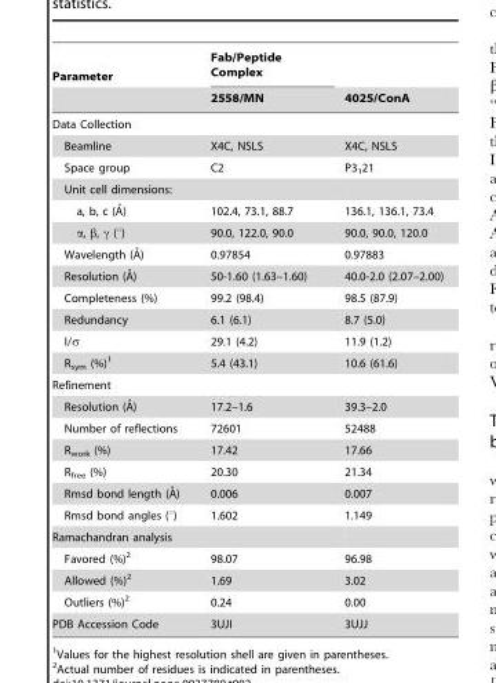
<table><thead><tr><td rowspan="2">Parameter</td><td rowspan="2">Fab/Peptide Complex 2558/MN</td><td rowspan="2">4025/ConA</td></tr><tr></tr></thead><tbody><tr><td colspan="3">Data Collection</td></tr><tr><td>Beamline</td><td>X4C, NSLS</td><td>X4C, NSLS</td></tr><tr><td>Space group</td><td>C2</td><td>P3<sub>1</sub>21</td></tr><tr><td colspan="3">Unit cell dimensions:</td></tr><tr><td>a, b, c (A˚)</td><td>102.4, 73.1, 88.7</td><td>136.1, 136.1, 73.4</td></tr><tr><td>α, β, γ (°)</td><td>90.0, 122.0, 90.0</td><td>90.0, 90.0, 120.0</td></tr><tr><td>Wavelength (A˚)</td><td>0.97854</td><td>0.97883</td></tr><tr><td>Resolution (A˚)</td><td>50-1.60 (1.63–1.60)</td><td>40.0-2.0 (2.07–2.00)</td></tr><tr><td>Completeness (%)</td><td>99.2 (98.4)</td><td>98.5 (87.9)</td></tr><tr><td>Redundancy</td><td>6.1 (6.1)</td><td>8.7 (5.0)</td></tr><tr><td>I/σ</td><td>29.1 (4.2)</td><td>11.9 (1.2)</td></tr><tr><td>R<sub>sym</sub> (%)<sup>1</sup></td><td>5.4 (43.1)</td><td>10.6 (61.6)</td></tr><tr><td colspan="3">Refinement</td></tr><tr><td>Resolution (A˚)</td><td>17.2–1.6</td><td>39.3–2.0</td></tr><tr><td>Number of reflections</td><td>72601</td><td>52488</td></tr><tr><td>R<sub>work</sub> (%)</td><td>17.42</td><td>17.66</td></tr><tr><td>R<sub>free</sub> (%)</td><td>20.30</td><td>21.34</td></tr><tr><td>Rmsd bond length (A˚)</td><td>0.006</td><td>0.007</td></tr><tr><td>Rmsd bond angles (°)</td><td>1.602</td><td>1.149</td></tr><tr><td colspan="3">Ramachandran analysis</td></tr><tr><td>Favored (%)<sup>2</sup></td><td>98.07</td><td>96.98</td></tr><tr><td>Allowed (%)<sup>2</sup></td><td>1.69</td><td>3.02</td></tr><tr><td>Outliers (%)<sup>2</sup></td><td>0.24</td><td>0.00</td></tr><tr><td>PDB Accession Code</td><td>3UJI</td><td>3UJJ</td></tr></tbody></table>